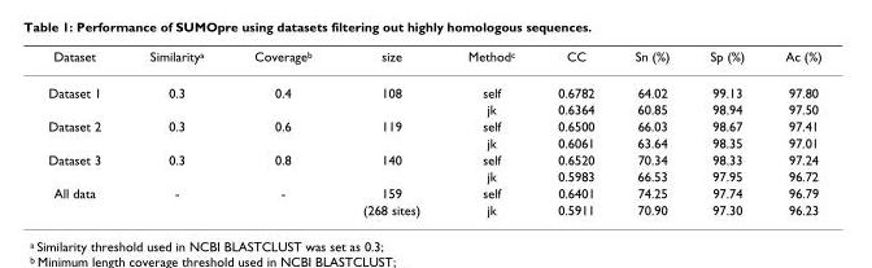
<table><thead><tr><td>Dataset</td><td>Similarity<sup>a</sup></td><td>Coverage<sup>b</sup></td><td>size</td><td>Method<sup>c</sup></td><td>CC</td><td>Sn (%)</td><td>Sp (%)</td><td>Ac (%)</td></tr></thead><tbody><tr><td rowspan="2">Dataset 1</td><td>0.3</td><td>0.4</td><td>108</td><td>self</td><td>0.6782</td><td>64.02</td><td>99.13</td><td>97.80</td></tr><tr><td></td><td></td><td></td><td>jk</td><td>0.6364</td><td>60.85</td><td>98.94</td><td>97.50</td></tr><tr><td rowspan="2">Dataset 2</td><td>0.3</td><td>0.6</td><td>119</td><td>self</td><td>0.6500</td><td>66.03</td><td>98.67</td><td>97.41</td></tr><tr><td></td><td></td><td></td><td>jk</td><td>0.6061</td><td>63.64</td><td>98.35</td><td>97.01</td></tr><tr><td rowspan="2">Dataset 3</td><td>0.3</td><td>0.8</td><td>140</td><td>self</td><td>0.6520</td><td>70.34</td><td>98.33</td><td>97.24</td></tr><tr><td></td><td></td><td></td><td>jk</td><td>0.5983</td><td>66.53</td><td>97.95</td><td>96.72</td></tr><tr><td rowspan="2">All data</td><td>-</td><td>-</td><td>159</td><td>self</td><td>0.6401</td><td>74.25</td><td>97.74</td><td>96.79</td></tr><tr><td></td><td></td><td>(268 sites)</td><td>jk</td><td>0.5911</td><td>70.90</td><td>97.30</td><td>96.23</td></tr></tbody></table>